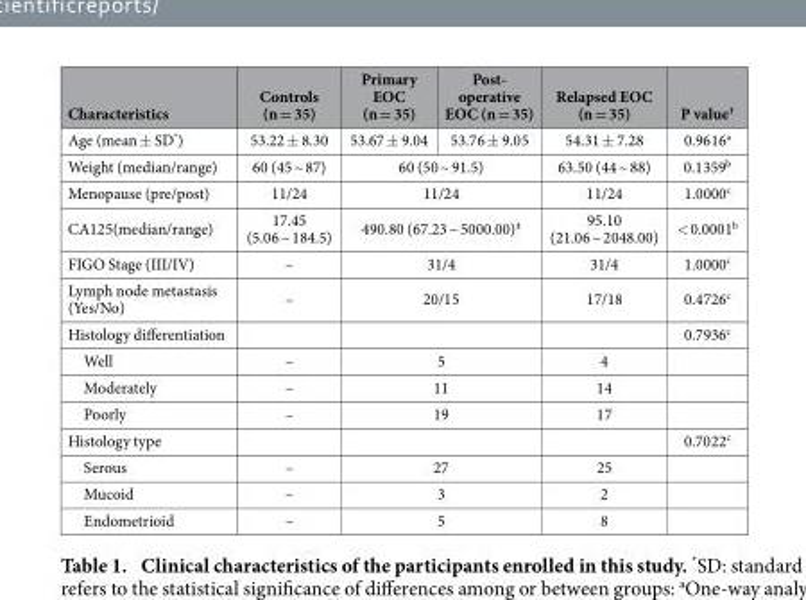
<table><thead><tr><td>Characteristics</td><td>Controls (n = 35)</td><td>Primary EOC (n = 35)</td><td>Post- operative EOC (n = 35)</td><td>Relapsed EOC (n = 35)</td><td>P value†</td></tr></thead><tbody><tr><td>Age (mean ± SD*)</td><td>53.22 ± 8.30</td><td>53.67 ± 9.04</td><td>53.76 ± 9.05</td><td>54.31 ± 7.28</td><td>0.9616<sup>a</sup></td></tr><tr><td>Weight (median/range)</td><td>60 (45 ~ 87)</td><td colspan="2">60 (50 ~ 91.5)</td><td>63.50 (44 ~ 88)</td><td>0.1359<sup>b</sup></td></tr><tr><td>Menopause (pre/post)</td><td>11/24</td><td colspan="2">11/24</td><td>11/24</td><td>1.0000<sup>c</sup></td></tr><tr><td>CA125(median/range)</td><td>17.45 (5.06 ~ 184.5)</td><td colspan="2">490.80 (67.23 ~ 5000.00)‡</td><td>95.10 (21.06 ~ 2048.00)</td><td>&lt; 0.0001<sup>b</sup></td></tr><tr><td>FIGO Stage (III/IV)</td><td>–</td><td colspan="2">31/4</td><td>31/4</td><td>1.0000<sup>c</sup></td></tr><tr><td>Lymph node metastasis (Yes/No)</td><td>–</td><td colspan="2">20/15</td><td>17/18</td><td>0.4726<sup>c</sup></td></tr><tr><td>Histology differentiation</td><td></td><td colspan="2"></td><td></td><td>0.7936<sup>c</sup></td></tr><tr><td>Well</td><td>–</td><td colspan="2">5</td><td>4</td><td></td></tr><tr><td>Moderately</td><td>–</td><td colspan="2">11</td><td>14</td><td></td></tr><tr><td>Poorly</td><td>–</td><td colspan="2">19</td><td>17</td><td></td></tr><tr><td>Histology type</td><td></td><td colspan="2"></td><td></td><td>0.7022<sup>c</sup></td></tr><tr><td>Serous</td><td>–</td><td colspan="2">27</td><td>25</td><td></td></tr><tr><td>Mucoid</td><td>–</td><td colspan="2">3</td><td>2</td><td></td></tr><tr><td>Endometrioid</td><td>–</td><td colspan="2">5</td><td>8</td><td></td></tr></tbody></table>